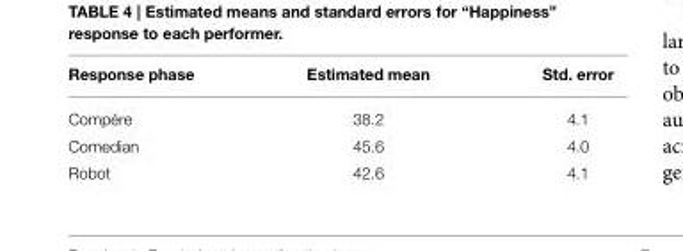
<table><thead><tr><td>Response phase</td><td>Estimated mean</td><td>Std. error</td></tr></thead><tbody><tr><td>Compére</td><td>38.2</td><td>4.1</td></tr><tr><td>Comedian</td><td>45.6</td><td>4.0</td></tr><tr><td>Robot</td><td>42.6</td><td>4.1</td></tr></tbody></table>